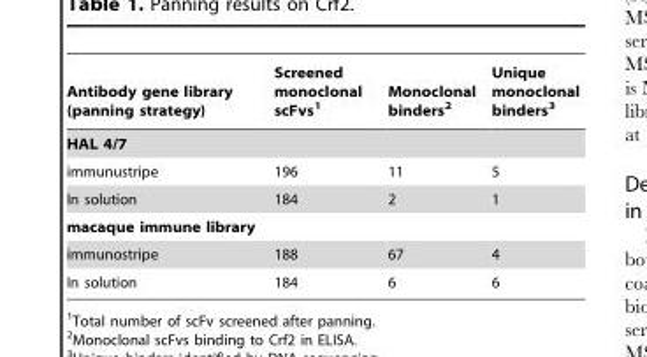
<table><thead><tr><td>Antibody gene library (panning strategy)</td><td>Screened monoclonal scFvs<sup>1</sup></td><td>Monoclonal binders<sup>2</sup></td><td>Unique monoclonal binders<sup>3</sup></td></tr></thead><tbody><tr><td colspan="4">HAL 4/7</td></tr><tr><td>immunustripe</td><td>196</td><td>11</td><td>5</td></tr><tr><td>In solution</td><td>184</td><td>2</td><td>1</td></tr><tr><td colspan="4">macaque immune library</td></tr><tr><td>immunostripe</td><td>188</td><td>67</td><td>4</td></tr><tr><td>In solution</td><td>184</td><td>6</td><td>6</td></tr></tbody></table>